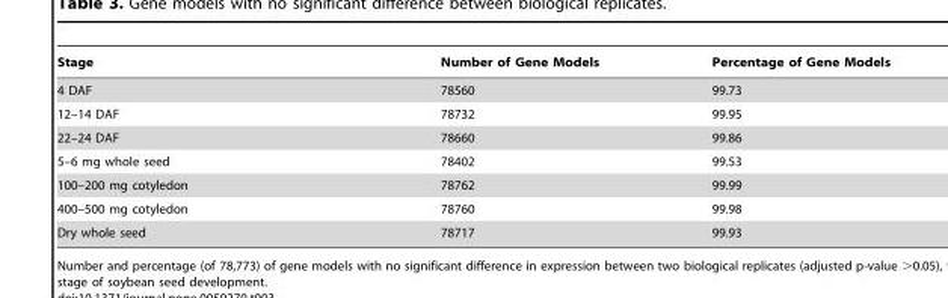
<table><thead><tr><td>Stage</td><td>Number of Gene Models</td><td>Percentage of Gene Models</td></tr></thead><tbody><tr><td>4 DAF</td><td>78560</td><td>99.73</td></tr><tr><td>12–14 DAF</td><td>78732</td><td>99.95</td></tr><tr><td>22–24 DAF</td><td>78660</td><td>99.86</td></tr><tr><td>5–6 mg whole seed</td><td>78402</td><td>99.53</td></tr><tr><td>100–200 mg cotyledon</td><td>78762</td><td>99.99</td></tr><tr><td>400–500 mg cotyledon</td><td>78760</td><td>99.98</td></tr><tr><td>Dry whole seed</td><td>78717</td><td>99.93</td></tr></tbody></table>